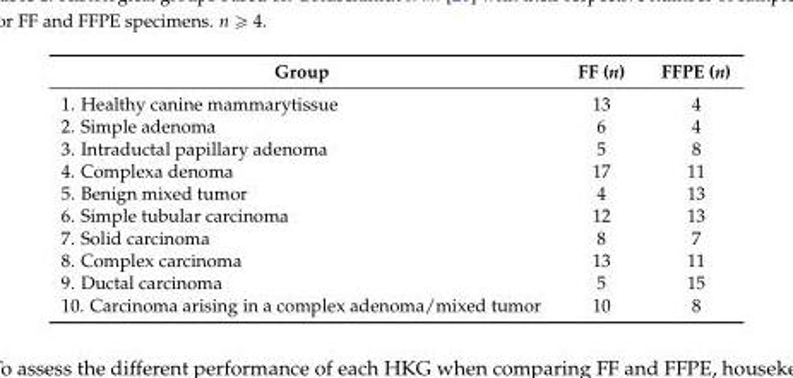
<table><thead><tr><td>Group</td><td>FF (n)</td><td>FFPE (n)</td></tr></thead><tbody><tr><td>1. Healthy canine mammarytissue</td><td>13</td><td>4</td></tr><tr><td>2. Simple adenoma</td><td>6</td><td>4</td></tr><tr><td>3. Intraductal papillary adenoma</td><td>5</td><td>8</td></tr><tr><td>4. Complexa denoma</td><td>17</td><td>11</td></tr><tr><td>5. Benign mixed tumor</td><td>4</td><td>13</td></tr><tr><td>6. Simple tubular carcinoma</td><td>12</td><td>13</td></tr><tr><td>7. Solid carcinoma</td><td>8</td><td>7</td></tr><tr><td>8. Complex carcinoma</td><td>13</td><td>11</td></tr><tr><td>9. Ductal carcinoma</td><td>5</td><td>15</td></tr><tr><td>10. Carcinoma arising in a complex adenoma/mixed tumor</td><td>10</td><td>8</td></tr></tbody></table>